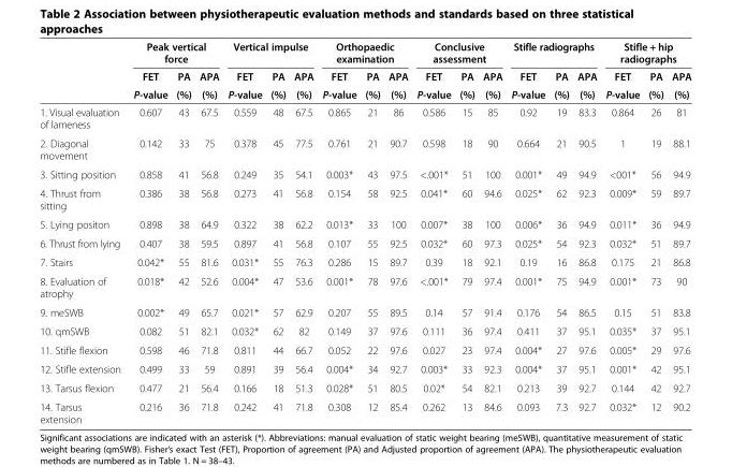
<table><thead><tr><td rowspan="3"></td><td colspan="3">Peak vertical force</td><td colspan="3">Vertical impulse</td><td colspan="3">Orthopaedic examination</td><td colspan="3">Conclusive assessment</td><td colspan="3">Stifle radiographs</td><td colspan="3">Stifle + hip radiographs</td></tr><tr><td rowspan="2">FET P-value</td><td rowspan="2">PA (%)</td><td rowspan="2">APA (%)</td><td rowspan="2">FET P-value</td><td rowspan="2">PA (%)</td><td rowspan="2">APA (%)</td><td rowspan="2">FET P-value</td><td rowspan="2">PA (%)</td><td rowspan="2">APA (%)</td><td rowspan="2">FET P-value</td><td rowspan="2">PA (%)</td><td rowspan="2">APA (%)</td><td rowspan="2">FET P-value</td><td rowspan="2">PA (%)</td><td rowspan="2">APA (%)</td><td rowspan="2">FET P-value</td><td rowspan="2">PA (%)</td><td rowspan="2">APA (%)</td></tr><tr></tr></thead><tbody><tr><td>1. Visual evaluation of lameness</td><td>0.607</td><td>43</td><td>67.5</td><td>0.559</td><td>48</td><td>67.5</td><td>0.865</td><td>21</td><td>86</td><td>0.586</td><td>15</td><td>85</td><td>0.92</td><td>19</td><td>83.3</td><td>0.864</td><td>26</td><td>81</td></tr><tr><td>2. Diagonal movement</td><td>0.142</td><td>33</td><td>75</td><td>0.378</td><td>45</td><td>77.5</td><td>0.761</td><td>21</td><td>90.7</td><td>0.598</td><td>18</td><td>90</td><td>0.664</td><td>21</td><td>90.5</td><td>1</td><td>19</td><td>88.1</td></tr><tr><td>3. Sitting position</td><td>0.858</td><td>41</td><td>56.8</td><td>0.249</td><td>35</td><td>54.1</td><td>0.003*</td><td>43</td><td>97.5</td><td>&lt;.001*</td><td>51</td><td>100</td><td>0.001*</td><td>49</td><td>94.9</td><td>&lt;001*</td><td>56</td><td>94.9</td></tr><tr><td>4. Thrust from sitting</td><td>0.386</td><td>38</td><td>56.8</td><td>0.273</td><td>41</td><td>56.8</td><td>0.154</td><td>58</td><td>92.5</td><td>0.041*</td><td>60</td><td>94.6</td><td>0.025*</td><td>62</td><td>92.3</td><td>0.009*</td><td>59</td><td>89.7</td></tr><tr><td>5. Lying positon</td><td>0.898</td><td>38</td><td>64.9</td><td>0.322</td><td>38</td><td>62.2</td><td>0.013*</td><td>33</td><td>100</td><td>0.007*</td><td>38</td><td>100</td><td>0.006*</td><td>36</td><td>94.9</td><td>0.011*</td><td>36</td><td>94.9</td></tr><tr><td>6. Thrust from lying</td><td>0.407</td><td>38</td><td>59.5</td><td>0.897</td><td>41</td><td>56.8</td><td>0.107</td><td>55</td><td>92.5</td><td>0.032*</td><td>60</td><td>97.3</td><td>0.025*</td><td>54</td><td>92.3</td><td>0.032*</td><td>51</td><td>89.7</td></tr><tr><td>7. Stairs</td><td>0.042*</td><td>55</td><td>81.6</td><td>0.031*</td><td>55</td><td>76.3</td><td>0.286</td><td>15</td><td>89.7</td><td>0.39</td><td>18</td><td>92.1</td><td>0.19</td><td>16</td><td>86.8</td><td>0.175</td><td>21</td><td>86.8</td></tr><tr><td>8. Evaluation of atrophy</td><td>0.018*</td><td>42</td><td>52.6</td><td>0.004*</td><td>47</td><td>53.6</td><td>0.001*</td><td>78</td><td>97.6</td><td>&lt;.001*</td><td>79</td><td>97.4</td><td>0.001*</td><td>75</td><td>94.9</td><td>0.001*</td><td>73</td><td>90</td></tr><tr><td>9. meSWB</td><td>0.002*</td><td>49</td><td>65.7</td><td>0.021*</td><td>57</td><td>62.9</td><td>0.207</td><td>55</td><td>89.5</td><td>0.14</td><td>57</td><td>91.4</td><td>0.176</td><td>54</td><td>86.5</td><td>0.15</td><td>51</td><td>83.8</td></tr><tr><td>10. qmSWB</td><td>0.082</td><td>51</td><td>82.1</td><td>0.032*</td><td>62</td><td>82</td><td>0.149</td><td>37</td><td>97.6</td><td>0.111</td><td>36</td><td>97.4</td><td>0.411</td><td>37</td><td>95.1</td><td>0.035*</td><td>37</td><td>95.1</td></tr><tr><td>11. Stifle flexion</td><td>0.598</td><td>46</td><td>71.8</td><td>0.811</td><td>44</td><td>66.7</td><td>0.052</td><td>22</td><td>97.6</td><td>0.027</td><td>23</td><td>97.4</td><td>0.004*</td><td>27</td><td>97.6</td><td>0.005*</td><td>29</td><td>97.6</td></tr><tr><td>12. Stifle extension</td><td>0.499</td><td>33</td><td>59</td><td>0.891</td><td>39</td><td>56.4</td><td>0.004*</td><td>34</td><td>92.7</td><td>0.003*</td><td>33</td><td>92.3</td><td>0.004*</td><td>37</td><td>95.1</td><td>0.001*</td><td>42</td><td>95.1</td></tr><tr><td>13. Tarsus flexion</td><td>0.477</td><td>21</td><td>56.4</td><td>0.166</td><td>18</td><td>51.3</td><td>0.028*</td><td>51</td><td>80.5</td><td>0.02*</td><td>54</td><td>82.1</td><td>0.213</td><td>39</td><td>92.7</td><td>0.144</td><td>42</td><td>92.7</td></tr><tr><td>14. Tarsus extension</td><td>0.216</td><td>36</td><td>71.8</td><td>0.242</td><td>41</td><td>71.8</td><td>0.308</td><td>12</td><td>85.4</td><td>0.262</td><td>13</td><td>84.6</td><td>0.093</td><td>7.3</td><td>92.7</td><td>0.032*</td><td>12</td><td>90.2</td></tr></tbody></table>